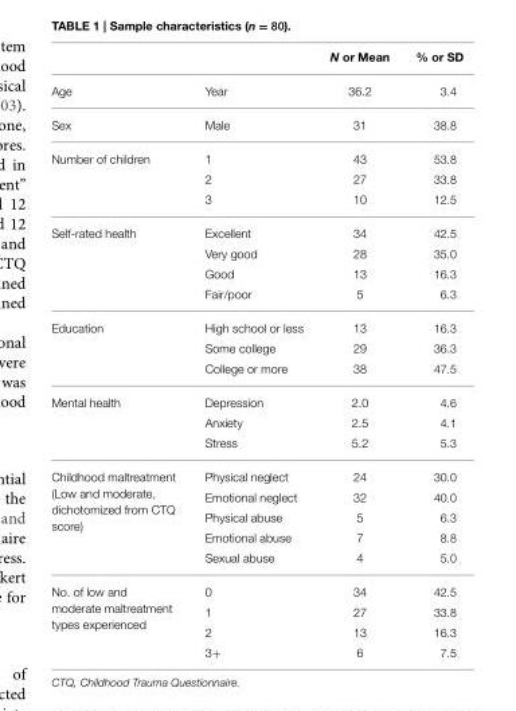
<table><thead><tr><td></td><td></td><td>N or Mean</td><td>% or SD</td></tr></thead><tbody><tr><td>Age</td><td>Year</td><td>36.2</td><td>3.4</td></tr><tr><td>Sex</td><td>Male</td><td>31</td><td>38.8</td></tr><tr><td rowspan="3">Number of children</td><td>1</td><td>43</td><td>53.8</td></tr><tr><td>2</td><td>27</td><td>33.8</td></tr><tr><td>3</td><td>10</td><td>12.5</td></tr><tr><td rowspan="4">Self-rated health</td><td>Excellent</td><td>34</td><td>42.5</td></tr><tr><td>Very good</td><td>28</td><td>35.0</td></tr><tr><td>Good</td><td>13</td><td>16.3</td></tr><tr><td>Fair/poor</td><td>5</td><td>6.3</td></tr><tr><td rowspan="3">Education</td><td>High school or less</td><td>13</td><td>16.3</td></tr><tr><td>Some college</td><td>29</td><td>36.3</td></tr><tr><td>College or more</td><td>38</td><td>47.5</td></tr><tr><td rowspan="3">Mental health</td><td>Depression</td><td>2.0</td><td>4.6</td></tr><tr><td>Anxiety</td><td>2.5</td><td>4.1</td></tr><tr><td>Stress</td><td>5.2</td><td>5.3</td></tr><tr><td rowspan="5">Childhood maltreatment (Low and moderate, dichotomized from CTQ score)</td><td>Physical neglect</td><td>24</td><td>30.0</td></tr><tr><td>Emotional neglect</td><td>32</td><td>40.0</td></tr><tr><td>Physical abuse</td><td>5</td><td>6.3</td></tr><tr><td>Emotional abuse</td><td>7</td><td>8.8</td></tr><tr><td>Sexual abuse</td><td>4</td><td>5.0</td></tr><tr><td rowspan="4">No. of low and moderate maltreatment types experienced</td><td>0</td><td>34</td><td>42.5</td></tr><tr><td>1</td><td>27</td><td>33.8</td></tr><tr><td>2</td><td>13</td><td>16.3</td></tr><tr><td>3+</td><td>6</td><td>7.5</td></tr></tbody></table>